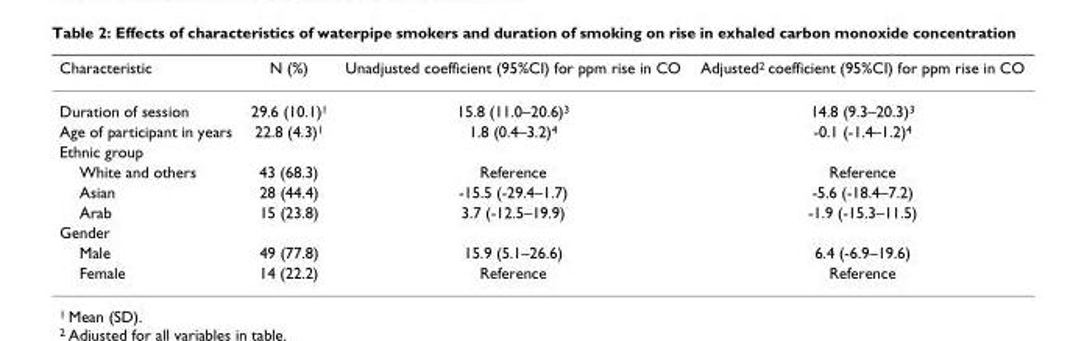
<table><thead><tr><td>Characteristic</td><td>N (%)</td><td>Unadjusted coefficient (95%CI) for ppm rise in CO</td><td>Adjusted<sup>2</sup> coefficient (95%CI) for ppm rise in CO</td></tr></thead><tbody><tr><td>Duration of session</td><td>29.6 (10.1)<sup>1</sup></td><td>15.8 (11.0–20.6)<sup>3</sup></td><td>14.8 (9.3–20.3)<sup>3</sup></td></tr><tr><td>Age of participant in years</td><td>22.8 (4.3)<sup>1</sup></td><td>1.8 (0.4–3.2)<sup>4</sup></td><td>-0.1 (-1.4–1.2)<sup>4</sup></td></tr><tr><td colspan="4">Ethnic group</td></tr><tr><td>White and others</td><td>43 (68.3)</td><td>Reference</td><td>Reference</td></tr><tr><td>Asian</td><td>28 (44.4)</td><td>-15.5 (-29.4–1.7)</td><td>-5.6 (-18.4–7.2)</td></tr><tr><td>Arab</td><td>15 (23.8)</td><td>3.7 (-12.5–19.9)</td><td>-1.9 (-15.3–11.5)</td></tr><tr><td colspan="4">Gender</td></tr><tr><td>Male</td><td>49 (77.8)</td><td>15.9 (5.1–26.6)</td><td>6.4 (-6.9–19.6)</td></tr><tr><td>Female</td><td>14 (22.2)</td><td>Reference</td><td>Reference</td></tr></tbody></table>